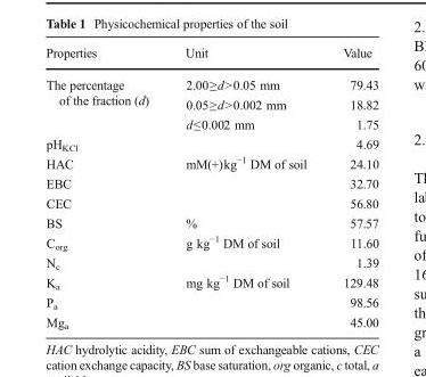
<table><thead><tr><td>Properties</td><td>Unit</td><td>Value</td></tr></thead><tbody><tr><td rowspan="3">The percentage of the fraction (d)</td><td>2.00≥d&gt;0.05 mm</td><td>79.43</td></tr><tr><td>0.05≥d&gt;0.002 mm</td><td>18.82</td></tr><tr><td>d≤0.002 mm</td><td>1.75</td></tr><tr><td>pH<sub>KCl</sub></td><td></td><td>4.69</td></tr><tr><td>HAC</td><td rowspan="3">mM(+)kg<sup>−1</sup> DM of soil</td><td>24.10</td></tr><tr><td>EBC</td><td>32.70</td></tr><tr><td>CEC</td><td>56.80</td></tr><tr><td>BS</td><td>%</td><td>57.57</td></tr><tr><td>C<sub>org</sub></td><td rowspan="2">g kg<sup>−1</sup> DM of soil</td><td>11.60</td></tr><tr><td>N<sub>c</sub></td><td>1.39</td></tr><tr><td>K<sub>a</sub></td><td rowspan="3">mg kg<sup>−1</sup> DM of soil</td><td>129.48</td></tr><tr><td>P<sub>a</sub></td><td>98.56</td></tr><tr><td>Mg<sub>a</sub></td><td>45.00</td></tr></tbody></table>